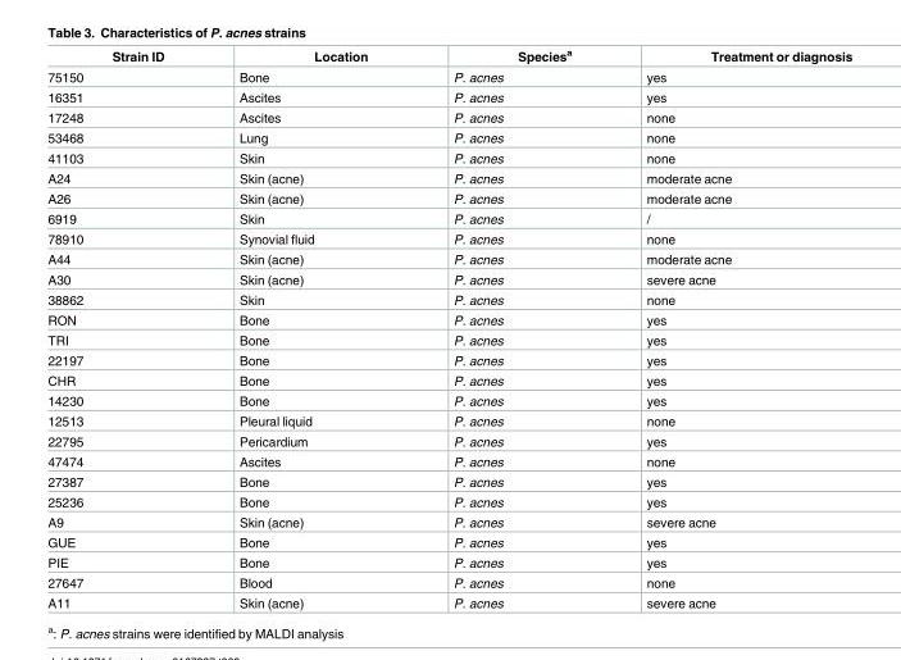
<table><thead><tr><td>Strain ID</td><td>Location</td><td>Species<sup>a</sup></td><td>Treatment or diagnosis</td></tr></thead><tbody><tr><td>75150</td><td>Bone</td><td>P. acnes</td><td>yes</td></tr><tr><td>16351</td><td>Ascites</td><td>P. acnes</td><td>yes</td></tr><tr><td>17248</td><td>Ascites</td><td>P. acnes</td><td>none</td></tr><tr><td>53468</td><td>Lung</td><td>P. acnes</td><td>none</td></tr><tr><td>41103</td><td>Skin</td><td>P. acnes</td><td>none</td></tr><tr><td>A24</td><td>Skin (acne)</td><td>P. acnes</td><td>moderate acne</td></tr><tr><td>A26</td><td>Skin (acne)</td><td>P. acnes</td><td>moderate acne</td></tr><tr><td>6919</td><td>Skin</td><td>P. acnes</td><td>/</td></tr><tr><td>78910</td><td>Synovial fluid</td><td>P. acnes</td><td>none</td></tr><tr><td>A44</td><td>Skin (acne)</td><td>P. acnes</td><td>moderate acne</td></tr><tr><td>A30</td><td>Skin (acne)</td><td>P. acnes</td><td>severe acne</td></tr><tr><td>38862</td><td>Skin</td><td>P. acnes</td><td>none</td></tr><tr><td>RON</td><td>Bone</td><td>P. acnes</td><td>yes</td></tr><tr><td>TRI</td><td>Bone</td><td>P. acnes</td><td>yes</td></tr><tr><td>22197</td><td>Bone</td><td>P. acnes</td><td>yes</td></tr><tr><td>CHR</td><td>Bone</td><td>P. acnes</td><td>yes</td></tr><tr><td>14230</td><td>Bone</td><td>P. acnes</td><td>yes</td></tr><tr><td>12513</td><td>Pleural liquid</td><td>P. acnes</td><td>none</td></tr><tr><td>22795</td><td>Pericardium</td><td>P. acnes</td><td>yes</td></tr><tr><td>47474</td><td>Ascites</td><td>P. acnes</td><td>none</td></tr><tr><td>27387</td><td>Bone</td><td>P. acnes</td><td>yes</td></tr><tr><td>25236</td><td>Bone</td><td>P. acnes</td><td>yes</td></tr><tr><td>A9</td><td>Skin (acne)</td><td>P. acnes</td><td>severe acne</td></tr><tr><td>GUE</td><td>Bone</td><td>P. acnes</td><td>yes</td></tr><tr><td>PIE</td><td>Bone</td><td>P. acnes</td><td>yes</td></tr><tr><td>27647</td><td>Blood</td><td>P. acnes</td><td>none</td></tr><tr><td>A11</td><td>Skin (acne)</td><td>P. acnes</td><td>severe acne</td></tr></tbody></table>